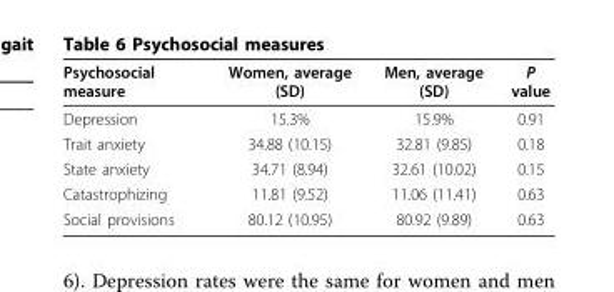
<table><thead><tr><td>Psychosocial measure</td><td>Women, average (SD)</td><td>Men, average (SD)</td><td>P value</td></tr></thead><tbody><tr><td>Depression</td><td>15.3%</td><td>15.9%</td><td>0.91</td></tr><tr><td>Trait anxiety</td><td>34.88 (10.15)</td><td>32.81 (9.85)</td><td>0.18</td></tr><tr><td>State anxiety</td><td>34.71 (8.94)</td><td>32.61 (10.02)</td><td>0.15</td></tr><tr><td>Catastrophizing</td><td>11.81 (9.52)</td><td>11.06 (11.41)</td><td>0.63</td></tr><tr><td>Social provisions</td><td>80.12 (10.95)</td><td>80.92 (9.89)</td><td>0.63</td></tr></tbody></table>